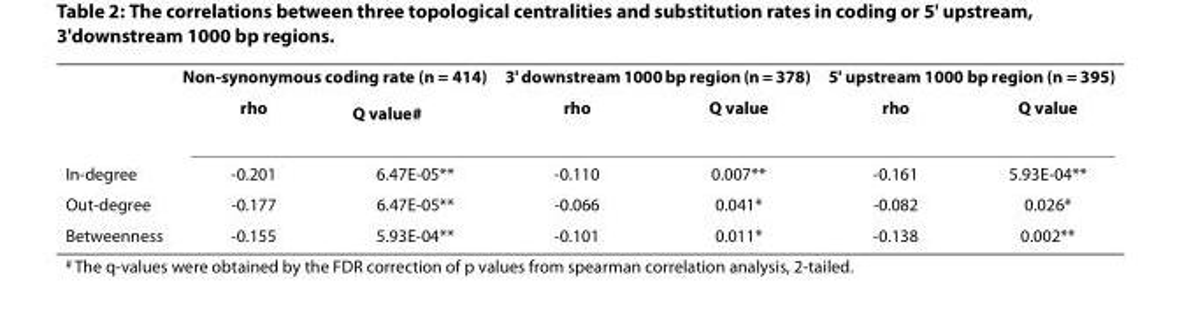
<table><thead><tr><td rowspan="2"></td><td colspan="2">Non-synonymous coding rate (n = 414)</td><td colspan="2">3&#x27; downstream 1000 bp region (n = 378)</td><td colspan="2">5&#x27; upstream 1000 bp region (n = 395)</td></tr><tr><td>rho</td><td>Q value<sup>#</sup></td><td>rho</td><td>Q value</td><td>rho</td><td>Q value</td></tr></thead><tbody><tr><td>In-degree</td><td>-0.201</td><td>6.47E-05**</td><td>-0.110</td><td>0.007**</td><td>-0.161</td><td>5.93E-04**</td></tr><tr><td>Out-degree</td><td>-0.177</td><td>6.47E-05**</td><td>-0.066</td><td>0.041*</td><td>-0.082</td><td>0.026*</td></tr><tr><td>Betweenness</td><td>-0.155</td><td>5.93E-04**</td><td>-0.101</td><td>0.011*</td><td>-0.138</td><td>0.002**</td></tr></tbody></table>